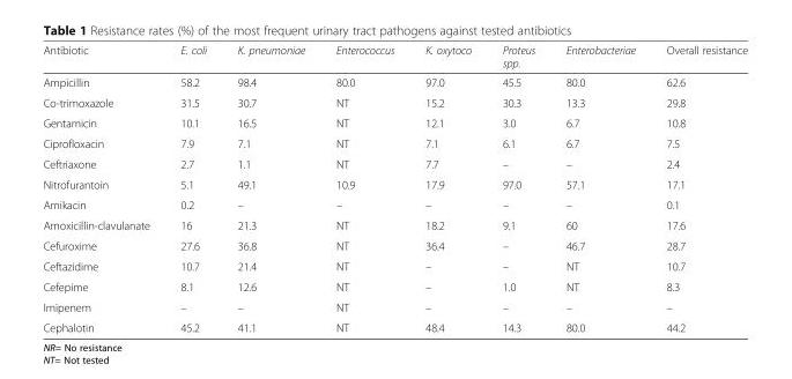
<table><thead><tr><td>Antibiotic</td><td>E. coli</td><td>K. pneumoniae</td><td>Enterococcus</td><td>K. oxytoco</td><td>Proteus spp.</td><td>Enterobacteriae</td><td>Overall resistance</td></tr></thead><tbody><tr><td>Ampicillin</td><td>58.2</td><td>98.4</td><td>80.0</td><td>97.0</td><td>45.5</td><td>80.0</td><td>62.6</td></tr><tr><td>Co-trimoxazole</td><td>31.5</td><td>30.7</td><td>NT</td><td>15.2</td><td>30.3</td><td>13.3</td><td>29.8</td></tr><tr><td>Gentamicin</td><td>10.1</td><td>16.5</td><td>NT</td><td>12.1</td><td>3.0</td><td>6.7</td><td>10.8</td></tr><tr><td>Ciprofloxacin</td><td>7.9</td><td>7.1</td><td>NT</td><td>7.1</td><td>6.1</td><td>6.7</td><td>7.5</td></tr><tr><td>Ceftriaxone</td><td>2.7</td><td>1.1</td><td>NT</td><td>7.7</td><td>–</td><td>–</td><td>2.4</td></tr><tr><td>Nitrofurantoin</td><td>5.1</td><td>49.1</td><td>10.9</td><td>17.9</td><td>97.0</td><td>57.1</td><td>17.1</td></tr><tr><td>Amikacin</td><td>0.2</td><td>–</td><td>–</td><td>–</td><td>–</td><td>–</td><td>0.1</td></tr><tr><td>Amoxicillin-clavulanate</td><td>16</td><td>21.3</td><td>NT</td><td>18.2</td><td>9.1</td><td>60</td><td>17.6</td></tr><tr><td>Cefuroxime</td><td>27.6</td><td>36.8</td><td>NT</td><td>36.4</td><td>–</td><td>46.7</td><td>28.7</td></tr><tr><td>Ceftazidime</td><td>10.7</td><td>21.4</td><td>NT</td><td>–</td><td>–</td><td>NT</td><td>10.7</td></tr><tr><td>Cefepime</td><td>8.1</td><td>12.6</td><td>NT</td><td>–</td><td>1.0</td><td>NT</td><td>8.3</td></tr><tr><td>Imipenem</td><td>–</td><td>–</td><td>NT</td><td>–</td><td>–</td><td>–</td><td>–</td></tr><tr><td>Cephalotin</td><td>45.2</td><td>41.1</td><td>NT</td><td>48.4</td><td>14.3</td><td>80.0</td><td>44.2</td></tr></tbody></table>